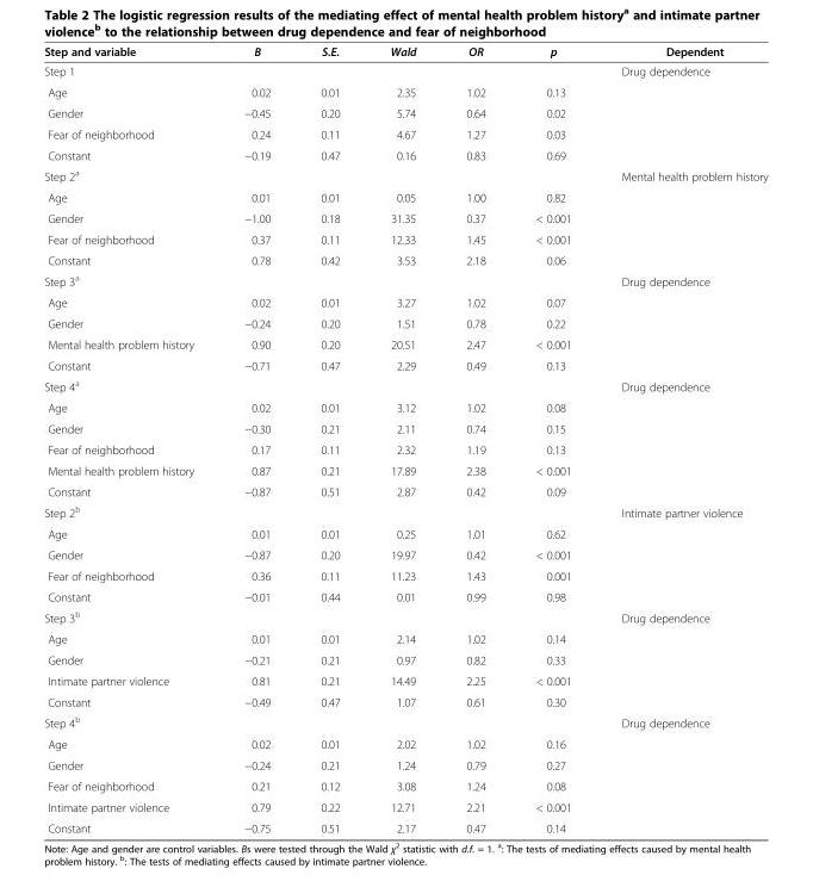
<table><thead><tr><td>Step and variable</td><td>B</td><td>S.E.</td><td>Wald</td><td>OR</td><td>p</td><td>Dependent</td></tr></thead><tbody><tr><td>Step 1</td><td></td><td></td><td></td><td></td><td></td><td>Drug dependence</td></tr><tr><td>Age</td><td>0.02</td><td>0.01</td><td>2.35</td><td>1.02</td><td>0.13</td><td></td></tr><tr><td>Gender</td><td>−0.45</td><td>0.20</td><td>5.74</td><td>0.64</td><td>0.02</td><td></td></tr><tr><td>Fear of neighborhood</td><td>0.24</td><td>0.11</td><td>4.67</td><td>1.27</td><td>0.03</td><td></td></tr><tr><td>Constant</td><td>−0.19</td><td>0.47</td><td>0.16</td><td>0.83</td><td>0.69</td><td></td></tr><tr><td>Step 2<sup>a</sup></td><td></td><td></td><td></td><td></td><td></td><td>Mental health problem history</td></tr><tr><td>Age</td><td>0.01</td><td>0.01</td><td>0.05</td><td>1.00</td><td>0.82</td><td></td></tr><tr><td>Gender</td><td>−1.00</td><td>0.18</td><td>31.35</td><td>0.37</td><td>&lt; 0.001</td><td></td></tr><tr><td>Fear of neighborhood</td><td>0.37</td><td>0.11</td><td>12.33</td><td>1.45</td><td>&lt; 0.001</td><td></td></tr><tr><td>Constant</td><td>0.78</td><td>0.42</td><td>3.53</td><td>2.18</td><td>0.06</td><td></td></tr><tr><td>Step 3<sup>a</sup></td><td></td><td></td><td></td><td></td><td></td><td>Drug dependence</td></tr><tr><td>Age</td><td>0.02</td><td>0.01</td><td>3.27</td><td>1.02</td><td>0.07</td><td></td></tr><tr><td>Gender</td><td>−0.24</td><td>0.20</td><td>1.51</td><td>0.78</td><td>0.22</td><td></td></tr><tr><td>Mental health problem history</td><td>0.90</td><td>0.20</td><td>20.51</td><td>2.47</td><td>&lt; 0.001</td><td></td></tr><tr><td>Constant</td><td>−0.71</td><td>0.47</td><td>2.29</td><td>0.49</td><td>0.13</td><td></td></tr><tr><td>Step 4<sup>a</sup></td><td></td><td></td><td></td><td></td><td></td><td>Drug dependence</td></tr><tr><td>Age</td><td>0.02</td><td>0.01</td><td>3.12</td><td>1.02</td><td>0.08</td><td></td></tr><tr><td>Gender</td><td>−0.30</td><td>0.21</td><td>2.11</td><td>0.74</td><td>0.15</td><td></td></tr><tr><td>Fear of neighborhood</td><td>0.17</td><td>0.11</td><td>2.32</td><td>1.19</td><td>0.13</td><td></td></tr><tr><td>Mental health problem history</td><td>0.87</td><td>0.21</td><td>17.89</td><td>2.38</td><td>&lt; 0.001</td><td></td></tr><tr><td>Constant</td><td>−0.87</td><td>0.51</td><td>2.87</td><td>0.42</td><td>0.09</td><td></td></tr><tr><td>Step 2<sup>b</sup></td><td></td><td></td><td></td><td></td><td></td><td>Intimate partner violence</td></tr><tr><td>Age</td><td>0.01</td><td>0.01</td><td>0.25</td><td>1.01</td><td>0.62</td><td></td></tr><tr><td>Gender</td><td>−0.87</td><td>0.20</td><td>19.97</td><td>0.42</td><td>&lt; 0.001</td><td></td></tr><tr><td>Fear of neighborhood</td><td>0.36</td><td>0.11</td><td>11.23</td><td>1.43</td><td>0.001</td><td></td></tr><tr><td>Constant</td><td>−0.01</td><td>0.44</td><td>0.01</td><td>0.99</td><td>0.98</td><td></td></tr><tr><td>Step 3<sup>b</sup></td><td></td><td></td><td></td><td></td><td></td><td>Drug dependence</td></tr><tr><td>Age</td><td>0.01</td><td>0.01</td><td>2.14</td><td>1.02</td><td>0.14</td><td></td></tr><tr><td>Gender</td><td>−0.21</td><td>0.21</td><td>0.97</td><td>0.82</td><td>0.33</td><td></td></tr><tr><td>Intimate partner violence</td><td>0.81</td><td>0.21</td><td>14.49</td><td>2.25</td><td>&lt; 0.001</td><td></td></tr><tr><td>Constant</td><td>−0.49</td><td>0.47</td><td>1.07</td><td>0.61</td><td>0.30</td><td></td></tr><tr><td>Step 4<sup>b</sup></td><td></td><td></td><td></td><td></td><td></td><td>Drug dependence</td></tr><tr><td>Age</td><td>0.02</td><td>0.01</td><td>2.02</td><td>1.02</td><td>0.16</td><td></td></tr><tr><td>Gender</td><td>−0.24</td><td>0.21</td><td>1.24</td><td>0.79</td><td>0.27</td><td></td></tr><tr><td>Fear of neighborhood</td><td>0.21</td><td>0.12</td><td>3.08</td><td>1.24</td><td>0.08</td><td></td></tr><tr><td>Intimate partner violence</td><td>0.79</td><td>0.22</td><td>12.71</td><td>2.21</td><td>&lt; 0.001</td><td></td></tr><tr><td>Constant</td><td>−0.75</td><td>0.51</td><td>2.17</td><td>0.47</td><td>0.14</td><td></td></tr></tbody></table>